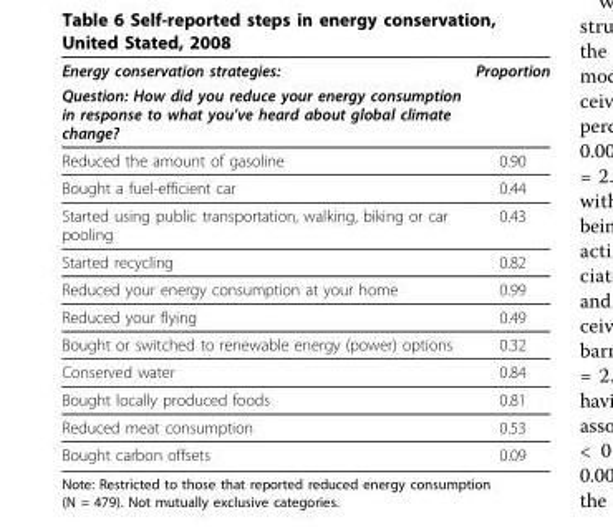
<table><thead><tr><td rowspan="2">Energy conservation strategies: Question: How did you reduce your energy consumption in response to what you’ve heard about global climate change?</td><td rowspan="2">Proportion</td></tr><tr></tr></thead><tbody><tr><td>Reduced the amount of gasoline</td><td>0.90</td></tr><tr><td>Bought a fuel-efficient car</td><td>0.44</td></tr><tr><td>Started using public transportation, walking, biking or car pooling</td><td>0.43</td></tr><tr><td>Started recycling</td><td>0.82</td></tr><tr><td>Reduced your energy consumption at your home</td><td>0.99</td></tr><tr><td>Reduced your flying</td><td>0.49</td></tr><tr><td>Bought or switched to renewable energy (power) options</td><td>0.32</td></tr><tr><td>Conserved water</td><td>0.84</td></tr><tr><td>Bought locally produced foods</td><td>0.81</td></tr><tr><td>Reduced meat consumption</td><td>0.53</td></tr><tr><td>Bought carbon offsets</td><td>0.09</td></tr></tbody></table>